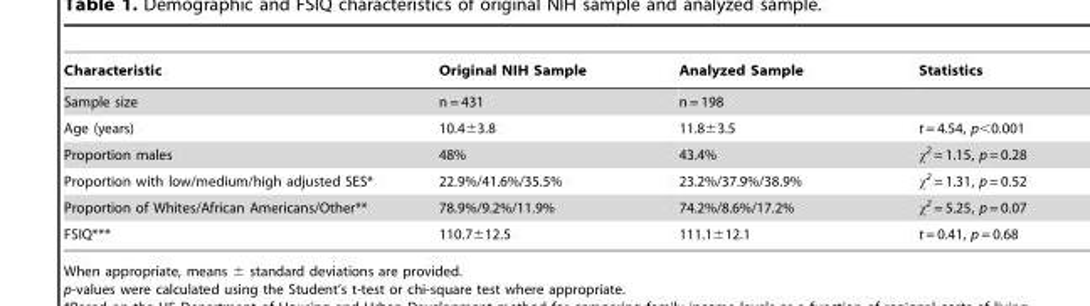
<table><thead><tr><td>Characteristic</td><td>Original NIH Sample</td><td>Analyzed Sample</td><td>Statistics</td></tr></thead><tbody><tr><td>Sample size</td><td>n = 431</td><td>n = 198</td><td></td></tr><tr><td>Age (years)</td><td>10.4±3.8</td><td>11.8±3.5</td><td>t = 4.54, p&lt;0.001</td></tr><tr><td>Proportion males</td><td>48%</td><td>43.4%</td><td>χ<sup>2</sup> = 1.15, p = 0.28</td></tr><tr><td>Proportion with low/medium/high adjusted SES*</td><td>22.9%/41.6%/35.5%</td><td>23.2%/37.9%/38.9%</td><td>χ<sup>2</sup> = 1.31, p = 0.52</td></tr><tr><td>Proportion of Whites/African Americans/Other**</td><td>78.9%/9.2%/11.9%</td><td>74.2%/8.6%/17.2%</td><td>χ<sup>2</sup> = 5.25, p = 0.07</td></tr><tr><td>FSIQ***</td><td>110.7±12.5</td><td>111.1±12.1</td><td>t = 0.41, p = 0.68</td></tr></tbody></table>